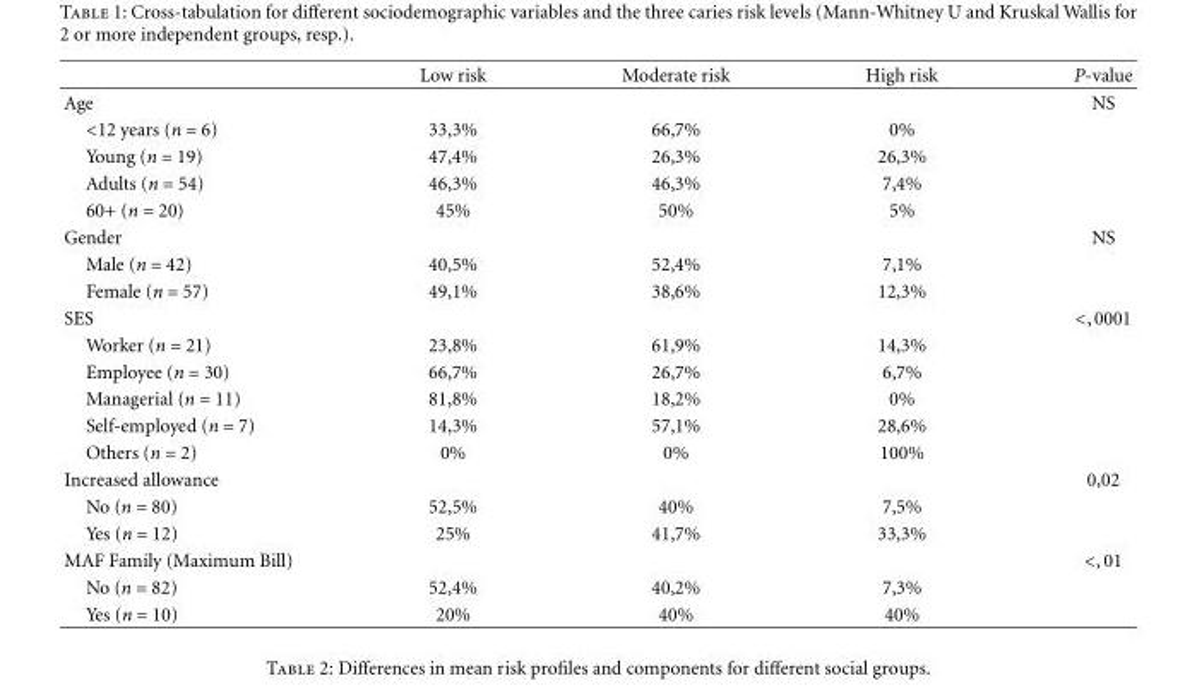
<table><thead><tr><td></td><td>Low risk</td><td>Moderate risk</td><td>High risk</td><td>P-value</td></tr></thead><tbody><tr><td>Age</td><td></td><td></td><td></td><td>NS</td></tr><tr><td>&lt;12 years (n = 6)</td><td>33,3%</td><td>66,7%</td><td>0%</td><td></td></tr><tr><td>Young (n = 19)</td><td>47,4%</td><td>26,3%</td><td>26,3%</td><td></td></tr><tr><td>Adults (n = 54)</td><td>46,3%</td><td>46,3%</td><td>7,4%</td><td></td></tr><tr><td>60+ (n = 20)</td><td>45%</td><td>50%</td><td>5%</td><td></td></tr><tr><td>Gender</td><td></td><td></td><td></td><td>NS</td></tr><tr><td>Male (n = 42)</td><td>40,5%</td><td>52,4%</td><td>7,1%</td><td></td></tr><tr><td>Female (n = 57)</td><td>49,1%</td><td>38,6%</td><td>12,3%</td><td></td></tr><tr><td>SES</td><td></td><td></td><td></td><td>&lt;,0001</td></tr><tr><td>Worker (n = 21)</td><td>23,8%</td><td>61,9%</td><td>14,3%</td><td></td></tr><tr><td>Employee (n = 30)</td><td>66,7%</td><td>26,7%</td><td>6,7%</td><td></td></tr><tr><td>Managerial (n = 11)</td><td>81,8%</td><td>18,2%</td><td>0%</td><td></td></tr><tr><td>Self-employed (n = 7)</td><td>14,3%</td><td>57,1%</td><td>28,6%</td><td></td></tr><tr><td>Others (n = 2)</td><td>0%</td><td>0%</td><td>100%</td><td></td></tr><tr><td>Increased allowance</td><td></td><td></td><td></td><td>0,02</td></tr><tr><td>No (n = 80)</td><td>52,5%</td><td>40%</td><td>7,5%</td><td></td></tr><tr><td>Yes (n = 12)</td><td>25%</td><td>41,7%</td><td>33,3%</td><td></td></tr><tr><td>MAF Family (Maximum Bill)</td><td></td><td></td><td></td><td>&lt;,01</td></tr><tr><td>No (n = 82)</td><td>52,4%</td><td>40,2%</td><td>7,3%</td><td></td></tr><tr><td>Yes (n = 10)</td><td>20%</td><td>40%</td><td>40%</td><td></td></tr></tbody></table>